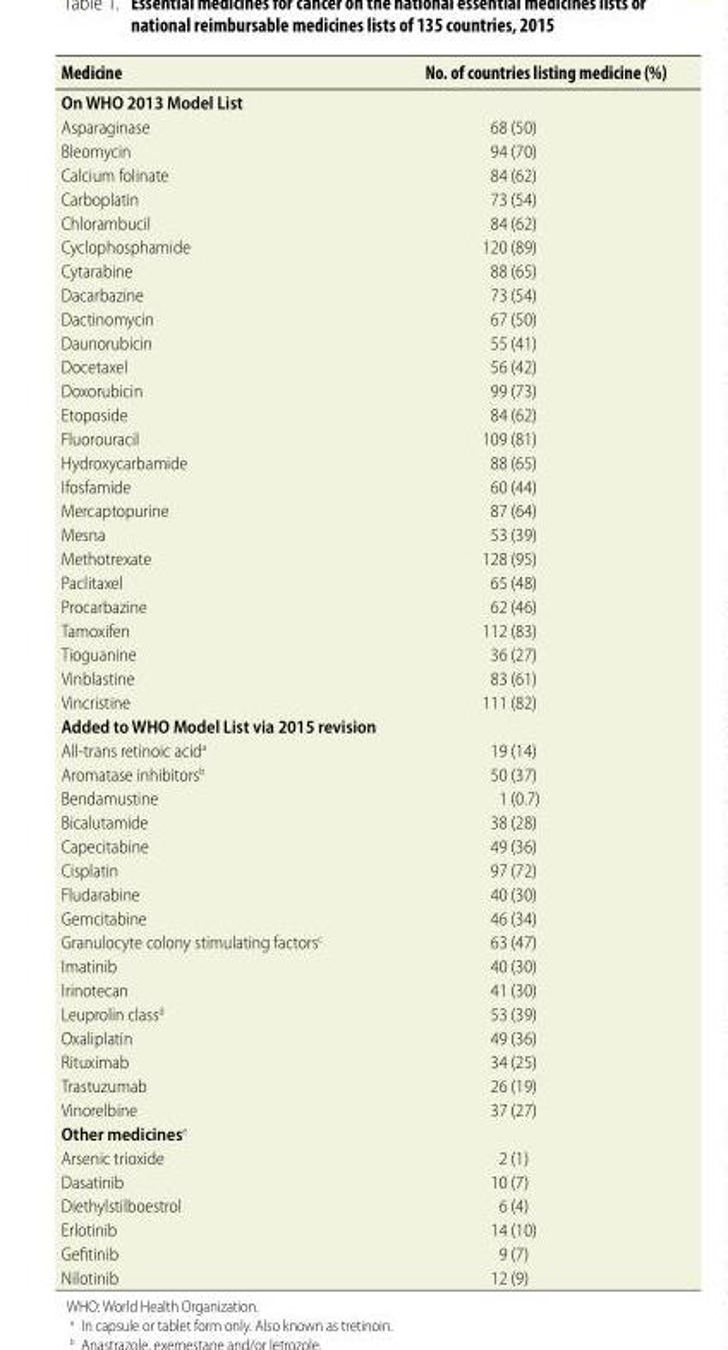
<table><thead><tr><td>Medicine</td><td>No. of countries listing medicine (%)</td></tr></thead><tbody><tr><td colspan="2">On WHO 2013 Model List</td></tr><tr><td>Asparaginase</td><td>68 (50)</td></tr><tr><td>Bleomycin</td><td>94 (70)</td></tr><tr><td>Calcium folinate</td><td>84 (62)</td></tr><tr><td>Carboplatin</td><td>73 (54)</td></tr><tr><td>Chlorambucil</td><td>84 (62)</td></tr><tr><td>Cyclophosphamide</td><td>120 (89)</td></tr><tr><td>Cytarabine</td><td>88 (65)</td></tr><tr><td>Dacarbazine</td><td>73 (54)</td></tr><tr><td>Dactinomycin</td><td>67 (50)</td></tr><tr><td>Daunorubicin</td><td>55 (41)</td></tr><tr><td>Docetaxel</td><td>56 (42)</td></tr><tr><td>Doxorubicin</td><td>99 (73)</td></tr><tr><td>Etoposide</td><td>84 (62)</td></tr><tr><td>Fluorouracil</td><td>109 (81)</td></tr><tr><td>Hydroxycarbamide</td><td>88 (65)</td></tr><tr><td>Ifosfamide</td><td>60 (44)</td></tr><tr><td>Mercaptopurine</td><td>87 (64)</td></tr><tr><td>Mesna</td><td>53 (39)</td></tr><tr><td>Methotrexate</td><td>128 (95)</td></tr><tr><td>Paclitaxel</td><td>65 (48)</td></tr><tr><td>Procarbazine</td><td>62 (46)</td></tr><tr><td>Tamoxifen</td><td>112 (83)</td></tr><tr><td>Tioguanine</td><td>36 (27)</td></tr><tr><td>Vinblastine</td><td>83 (61)</td></tr><tr><td>Vincristine</td><td>111 (82)</td></tr><tr><td colspan="2">Added to WHO Model List via 2015 revision</td></tr><tr><td>All-trans retinoic acid<sup>a</sup></td><td>19 (14)</td></tr><tr><td>Aromatase inhibitors<sup>b</sup></td><td>50 (37)</td></tr><tr><td>Bendamustine</td><td>1 (0.7)</td></tr><tr><td>Bicalutamide</td><td>38 (28)</td></tr><tr><td>Capecitabine</td><td>49 (36)</td></tr><tr><td>Cisplatin</td><td>97 (72)</td></tr><tr><td>Fludarabine</td><td>40 (30)</td></tr><tr><td>Gemcitabine</td><td>46 (34)</td></tr><tr><td>Granulocyte colony stimulating factors<sup>c</sup></td><td>63 (47)</td></tr><tr><td>Imatinib</td><td>40 (30)</td></tr><tr><td>Irinotecan</td><td>41 (30)</td></tr><tr><td>Leuprolin class<sup>d</sup></td><td>53 (39)</td></tr><tr><td>Oxaliplatin</td><td>49 (36)</td></tr><tr><td>Rituximab</td><td>34 (25)</td></tr><tr><td>Trastuzumab</td><td>26 (19)</td></tr><tr><td>Vinorelbine</td><td>37 (27)</td></tr><tr><td colspan="2">Other medicines<sup>e</sup></td></tr><tr><td>Arsenic trioxide</td><td>2 (1)</td></tr><tr><td>Dasatinib</td><td>10 (7)</td></tr><tr><td>Diethylstilboestrol</td><td>6 (4)</td></tr><tr><td>Erlotinib</td><td>14 (10)</td></tr><tr><td>Gefitinib</td><td>9 (7)</td></tr><tr><td>Nilotinib</td><td>12 (9)</td></tr></tbody></table>